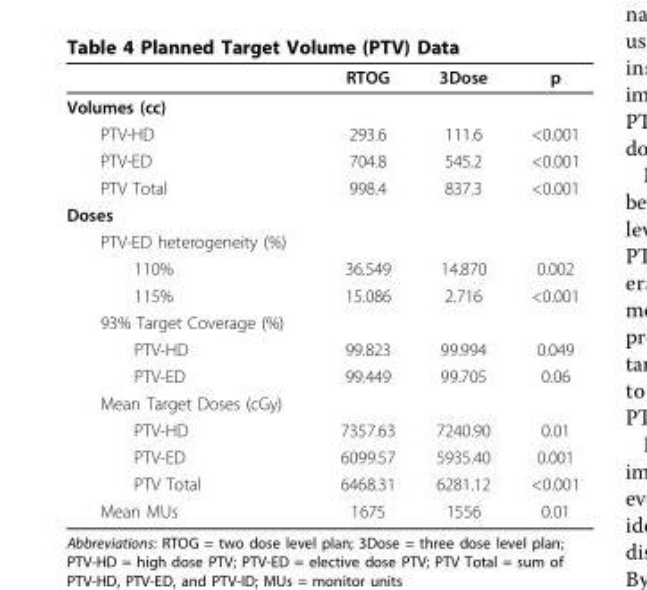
<table><thead><tr><td></td><td>RTOG</td><td>3Dose</td><td>p</td></tr></thead><tbody><tr><td colspan="4">Volumes (cc)</td></tr><tr><td>PTV-HD</td><td>293.6</td><td>111.6</td><td>&lt;0.001</td></tr><tr><td>PTV-ED</td><td>704.8</td><td>545.2</td><td>&lt;0.001</td></tr><tr><td>PTV Total</td><td>998.4</td><td>837.3</td><td>&lt;0.001</td></tr><tr><td colspan="4">Doses</td></tr><tr><td colspan="4">PTV-ED heterogeneity (%)</td></tr><tr><td>110%</td><td>36.549</td><td>14.870</td><td>0.002</td></tr><tr><td>115%</td><td>15.086</td><td>2.716</td><td>&lt;0.001</td></tr><tr><td colspan="4">93% Target Coverage (%)</td></tr><tr><td>PTV-HD</td><td>99.823</td><td>99.994</td><td>0.049</td></tr><tr><td>PTV-ED</td><td>99.449</td><td>99.705</td><td>0.06</td></tr><tr><td colspan="4">Mean Target Doses (cGy)</td></tr><tr><td>PTV-HD</td><td>7357.63</td><td>7240.90</td><td>0.01</td></tr><tr><td>PTV-ED</td><td>6099.57</td><td>5935.40</td><td>0.001</td></tr><tr><td>PTV Total</td><td>6468.31</td><td>6281.12</td><td>&lt;0.001</td></tr><tr><td>Mean MUs</td><td>1675</td><td>1556</td><td>0.01</td></tr></tbody></table>